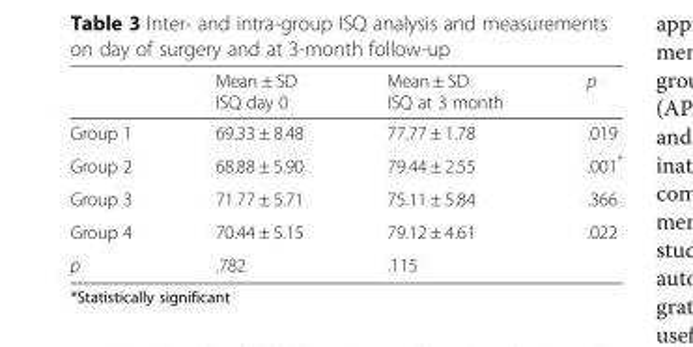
<table><thead><tr><td></td><td>Mean ± SD ISQ day 0</td><td>Mean ± SD ISQ at 3 month</td><td>p</td></tr></thead><tbody><tr><td>Group 1</td><td>69.33 ± 8.48</td><td>77.77 ± 1.78</td><td>.019</td></tr><tr><td>Group 2</td><td>68.88 ± 5.90</td><td>79.44 ± 2.55</td><td>.001*</td></tr><tr><td>Group 3</td><td>71.77 ± 5.71</td><td>75.11 ± 5.84</td><td>.366</td></tr><tr><td>Group 4</td><td>70.44 ± 5.15</td><td>79.12 ± 4.61</td><td>.022</td></tr><tr><td>p</td><td>.782</td><td>.115</td><td></td></tr></tbody></table>